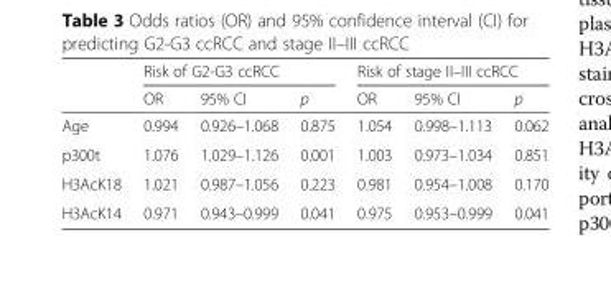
<table><thead><tr><td rowspan="2"></td><td colspan="3">Risk of G2-G3 ccRCC</td><td colspan="3">Risk of stage II–III ccRCC</td></tr><tr><td>OR</td><td>95% CI</td><td>p</td><td>OR</td><td>95% CI</td><td>p</td></tr></thead><tbody><tr><td>Age</td><td>0.994</td><td>0.926–1.068</td><td>0.875</td><td>1.054</td><td>0.998–1.113</td><td>0.062</td></tr><tr><td>p300t</td><td>1.076</td><td>1.029–1.126</td><td>0.001</td><td>1.003</td><td>0.973–1.034</td><td>0.851</td></tr><tr><td>H3AcK18</td><td>1.021</td><td>0.987–1.056</td><td>0.223</td><td>0.981</td><td>0.954–1.008</td><td>0.170</td></tr><tr><td>H3AcK14</td><td>0.971</td><td>0.943–0.999</td><td>0.041</td><td>0.975</td><td>0.953–0.999</td><td>0.041</td></tr></tbody></table>